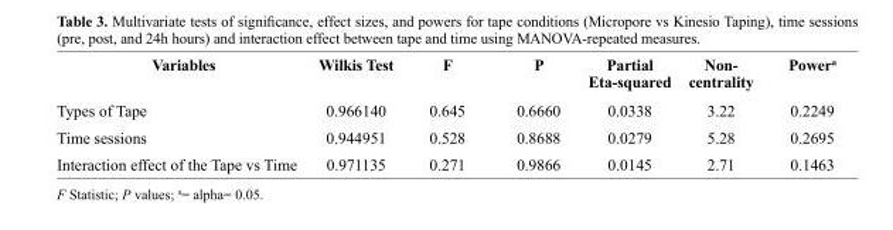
<table><thead><tr><td>Variables</td><td>Wilkis Test</td><td>F</td><td>P</td><td>Partial Eta-squared</td><td>Non- centrality</td><td>Power<sup>a</sup></td></tr></thead><tbody><tr><td>Types of Tape</td><td>0.966140</td><td>0.645</td><td>0.6660</td><td>0.0338</td><td>3.22</td><td>0.2249</td></tr><tr><td>Time sessions</td><td>0.944951</td><td>0.528</td><td>0.8688</td><td>0.0279</td><td>5.28</td><td>0.2695</td></tr><tr><td>Interaction effect of the Tape vs Time</td><td>0.971135</td><td>0.271</td><td>0.9866</td><td>0.0145</td><td>2.71</td><td>0.1463</td></tr></tbody></table>